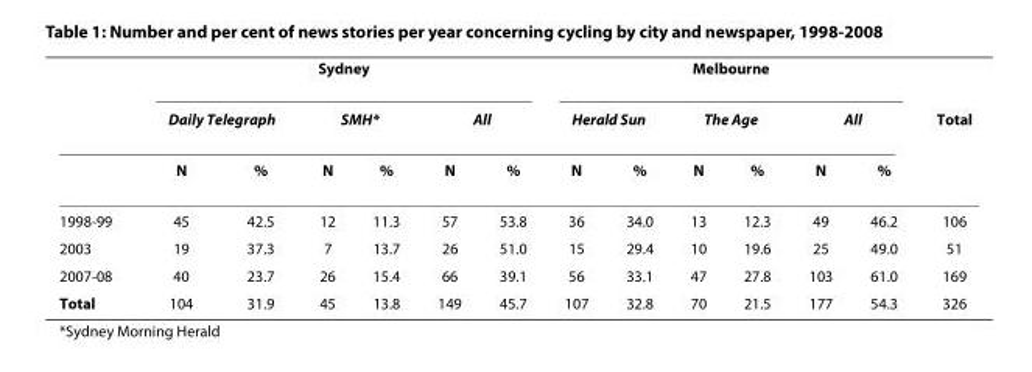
<table><thead><tr><td rowspan="3"></td><td colspan="6">Sydney</td><td colspan="6">Melbourne</td><td rowspan="3">Total</td></tr><tr><td colspan="2">Daily Telegraph</td><td colspan="2">SMH*</td><td colspan="2">All</td><td colspan="2">Herald Sun</td><td colspan="2">The Age</td><td colspan="2">All</td></tr><tr><td>N</td><td>%</td><td>N</td><td>%</td><td>N</td><td>%</td><td>N</td><td>%</td><td>N</td><td>%</td><td>N</td><td>%</td></tr></thead><tbody><tr><td>1998-99</td><td>45</td><td>42.5</td><td>12</td><td>11.3</td><td>57</td><td>53.8</td><td>36</td><td>34.0</td><td>13</td><td>12.3</td><td>49</td><td>46.2</td><td>106</td></tr><tr><td>2003</td><td>19</td><td>37.3</td><td>7</td><td>13.7</td><td>26</td><td>51.0</td><td>15</td><td>29.4</td><td>10</td><td>19.6</td><td>25</td><td>49.0</td><td>51</td></tr><tr><td>2007-08</td><td>40</td><td>23.7</td><td>26</td><td>15.4</td><td>66</td><td>39.1</td><td>56</td><td>33.1</td><td>47</td><td>27.8</td><td>103</td><td>61.0</td><td>169</td></tr><tr><td>Total</td><td>104</td><td>31.9</td><td>45</td><td>13.8</td><td>149</td><td>45.7</td><td>107</td><td>32.8</td><td>70</td><td>21.5</td><td>177</td><td>54.3</td><td>326</td></tr></tbody></table>